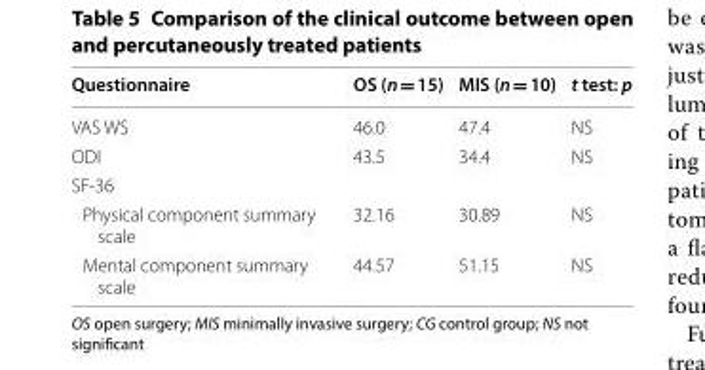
<table><thead><tr><td>Questionnaire</td><td>OS (n = 15)</td><td>MIS (n = 10)</td><td>t test: p</td></tr></thead><tbody><tr><td>VAS WS</td><td>46.0</td><td>47.4</td><td>NS</td></tr><tr><td>ODI</td><td>43.5</td><td>34.4</td><td>NS</td></tr><tr><td colspan="4">SF‑36</td></tr><tr><td>Physical component summary scale</td><td>32.16</td><td>30.89</td><td>NS</td></tr><tr><td>Mental component summary scale</td><td>44.57</td><td>51.15</td><td>NS</td></tr></tbody></table>